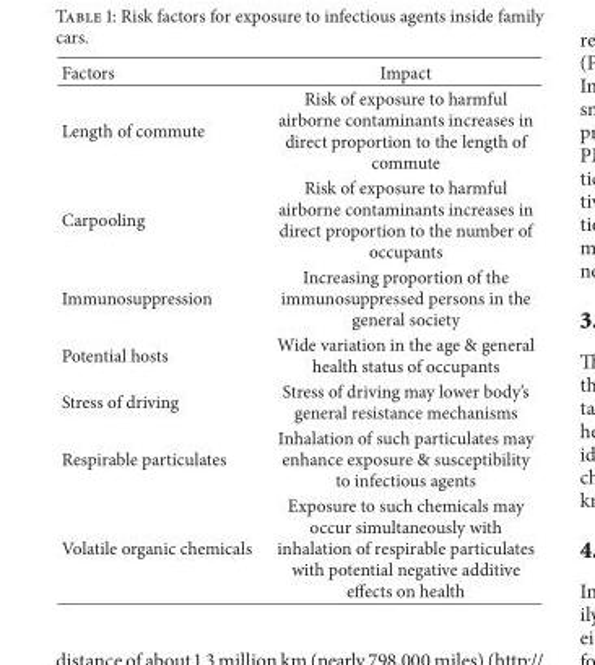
<table><thead><tr><td>Factors</td><td>Impact</td></tr></thead><tbody><tr><td>Length of commute</td><td>Risk of exposure to harmful airborne contaminants increases in direct proportion to the length of commute</td></tr><tr><td>Carpooling</td><td>Risk of exposure to harmful airborne contaminants increases in direct proportion to the number of occupants</td></tr><tr><td>Immunosuppression</td><td>Increasing proportion of the immunosuppressed persons in the general society</td></tr><tr><td>Potential hosts</td><td>Wide variation in the age &amp; general health status of occupants</td></tr><tr><td>Stress of driving</td><td>Stress of driving may lower body’s general resistance mechanisms</td></tr><tr><td>Respirable particulates</td><td>Inhalation of such particulates may enhance exposure &amp; susceptibility to infectious agents</td></tr><tr><td>Volatile organic chemicals</td><td>Exposure to such chemicals may occur simultaneously with inhalation of respirable particulates with potential negative additive effects on health</td></tr></tbody></table>